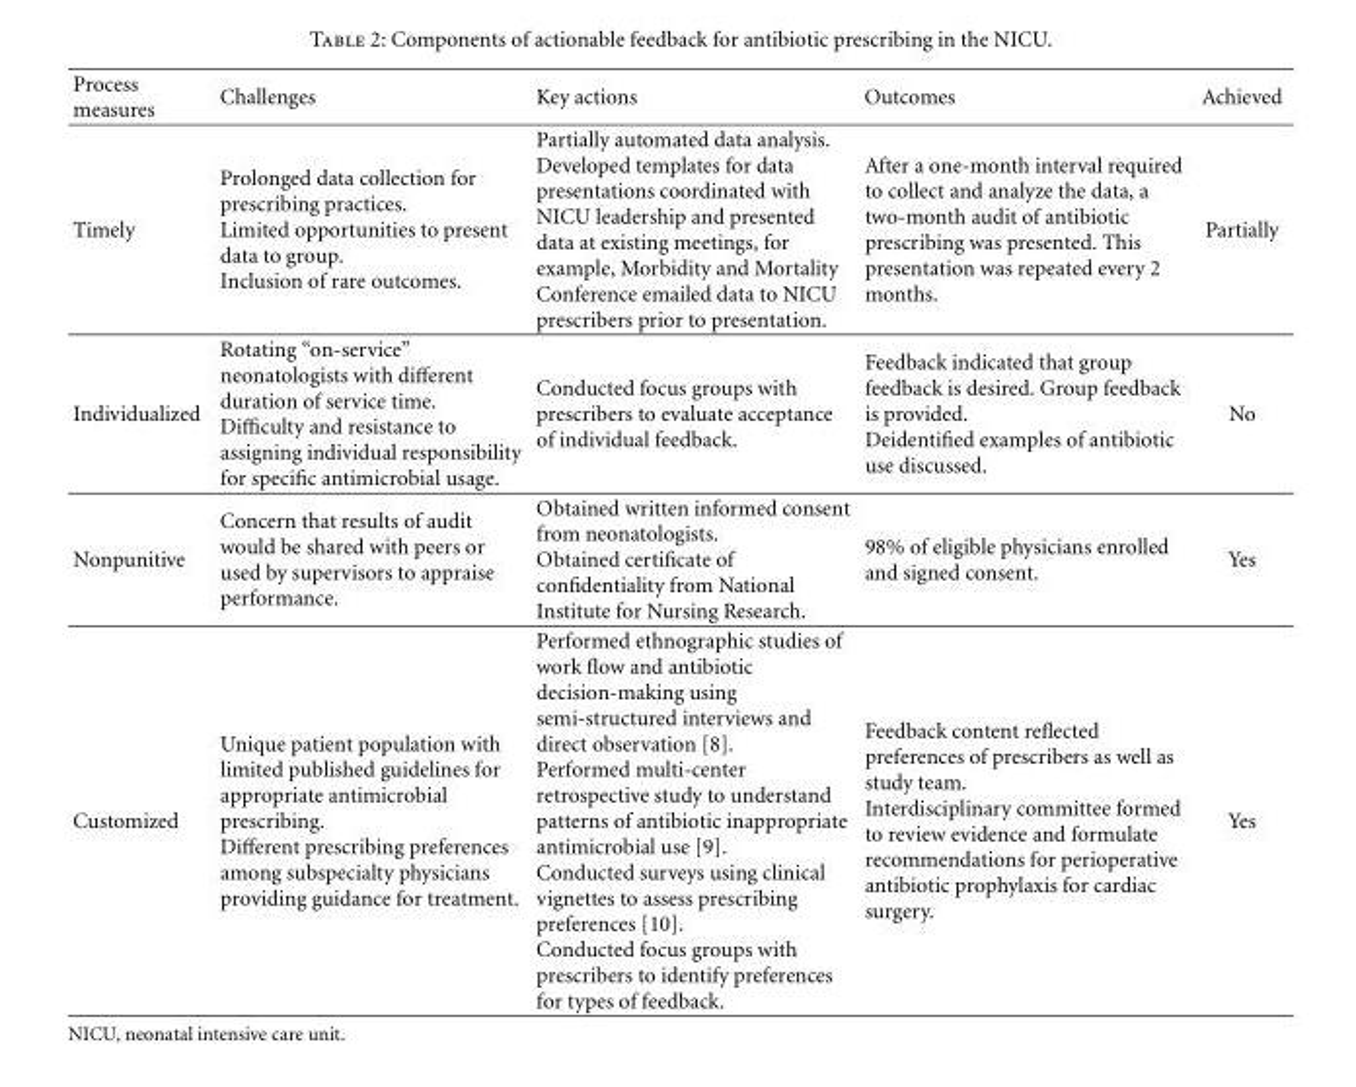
<table><thead><tr><td>Process measures</td><td>Challenges</td><td>Key actions</td><td>Outcomes</td><td>Achieved</td></tr></thead><tbody><tr><td>Timely</td><td>Prolonged data collection for prescribing practices. Limited opportunities to present data to group. Inclusion of rare outcomes.</td><td>Partially automated data analysis. Developed templates for data presentations coordinated with NICU leadership and presented data at existing meetings, for example, Morbidity and Mortality Conference emailed data to NICU prescribers prior to presentation.</td><td>After a one-month interval required to collect and analyze the data, a two-month audit of antibiotic prescribing was presented. This presentation was repeated every 2 months.</td><td>Partially</td></tr><tr><td>Individualized</td><td>Rotating “on-service” neonatologists with different duration of service time. Difficulty and resistance to assigning individual responsibility for specific antimicrobial usage.</td><td>Conducted focus groups with prescribers to evaluate acceptance of individual feedback.</td><td>Feedback indicated that group feedback is desired. Group feedback is provided. Deidentified examples of antibiotic use discussed.</td><td>No</td></tr><tr><td>Nonpunitive</td><td>Concern that results of audit would be shared with peers or used by supervisors to appraise performance.</td><td>Obtained written informed consent from neonatologists. Obtained certificate of confidentiality from National Institute for Nursing Research.</td><td>98% of eligible physicians enrolled and signed consent.</td><td>Yes</td></tr><tr><td>Customized</td><td>Unique patient population with limited published guidelines for appropriate antimicrobial prescribing. Different prescribing preferences among subspecialty physicians providing guidance for treatment.</td><td>Performed ethnographic studies of work flow and antibiotic decision-making using semi-structured interviews and direct observation [8]. Performed multi-center retrospective study to understand patterns of antibiotic inappropriate antimicrobial use [9]. Conducted surveys using clinical vignettes to assess prescribing preferences [10]. Conducted focus groups with prescribers to identify preferences for types of feedback.</td><td>Feedback content reflected preferences of prescribers as well as study team. Interdisciplinary committee formed to review evidence and formulate recommendations for perioperative antibiotic prophylaxis for cardiac surgery.</td><td>Yes</td></tr></tbody></table>